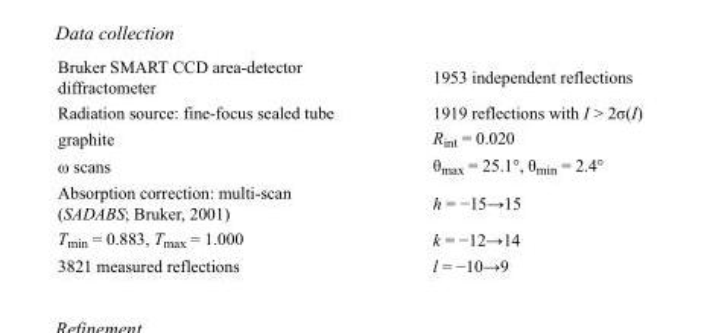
<table><tbody><tr><td>Bruker SMART CCD area-detector diffractometer</td><td>1953 independent reflections</td></tr><tr><td>Radiation source: fine-focus sealed tube</td><td>1919 reflections with I &gt; 2σ(I)</td></tr><tr><td>graphite</td><td>R<sub>int</sub> = 0.020</td></tr><tr><td>ω scans</td><td>θ<sub>max</sub> = 25.1°, θ<sub>min</sub> = 2.4°</td></tr><tr><td>Absorption correction: multi-scan (SADABS; Bruker, 2001)</td><td>h = −15→15</td></tr><tr><td>T<sub>min</sub> = 0.883, T<sub>max</sub> = 1.000</td><td>k = −12→14</td></tr><tr><td>3821 measured reflections</td><td>l = −10→9</td></tr></tbody></table>